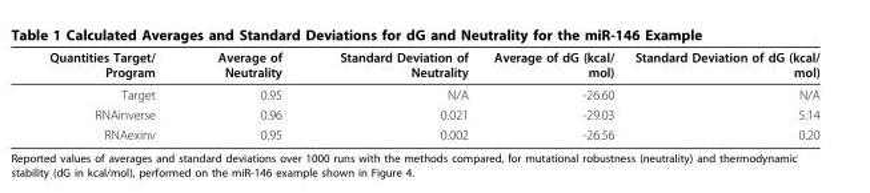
<table><thead><tr><td>Quantities Target/ Program</td><td>Average of Neutrality</td><td>Standard Deviation of Neutrality</td><td>Average of dG (kcal/ mol)</td><td>Standard Deviation of dG (kcal/ mol)</td></tr></thead><tbody><tr><td>Target</td><td>0.95</td><td>N/A</td><td>-26.60</td><td>N/A</td></tr><tr><td>RNAinverse</td><td>0.96</td><td>0.021</td><td>-29.03</td><td>5.14</td></tr><tr><td>RNAexinv</td><td>0.95</td><td>0.002</td><td>-26.56</td><td>0.20</td></tr></tbody></table>